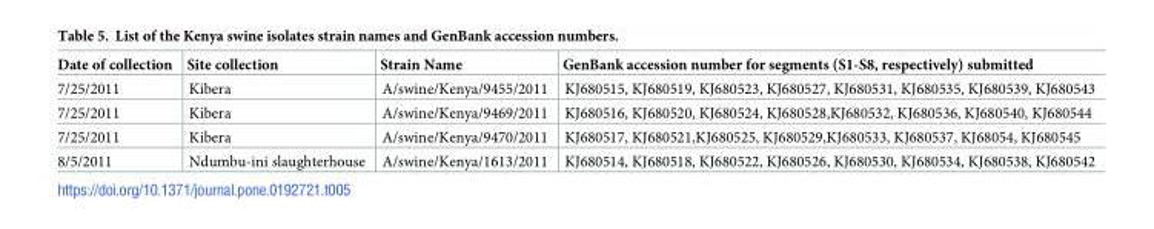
<table><thead><tr><td>Date of collection</td><td>Site collection</td><td>Strain Name</td><td>GenBank accession number for segments (S1-S8, respectively) submitted</td></tr></thead><tbody><tr><td>7/25/2011</td><td>Kibera</td><td>A/swine/Kenya/9455/2011</td><td>KJ680515, KJ680519, KJ680523, KJ680527, KJ680531, KJ680535, KJ680539, KJ680543</td></tr><tr><td>7/25/2011</td><td>Kibera</td><td>A/swine/Kenya/9469/2011</td><td>KJ680516, KJ680520, KJ680524, KJ680528,KJ680532, KJ680536, KJ680540, KJ680544</td></tr><tr><td>7/25/2011</td><td>Kibera</td><td>A/swine/Kenya/9470/2011</td><td>KJ680517, KJ680521,KJ680525, KJ680529,KJ680533, KJ680537, KJ68054, KJ680545</td></tr><tr><td>8/5/2011</td><td>Ndumbu-ini slaughterhouse</td><td>A/swine/Kenya/1613/2011</td><td>KJ680514, KJ680518, KJ680522, KJ680526, KJ680530, KJ680534, KJ680538, KJ680542</td></tr></tbody></table>